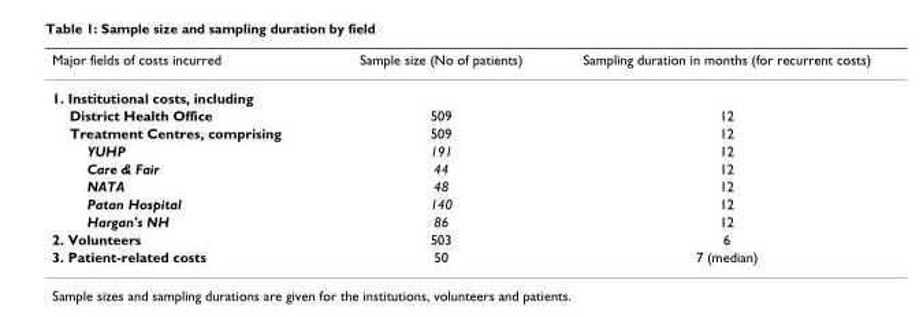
<table><thead><tr><td>Major fields of costs incurred</td><td>Sample size (No of patients)</td><td>Sampling duration in months (for recurrent costs)</td></tr></thead><tbody><tr><td colspan="3">1. Institutional costs, including</td></tr><tr><td>District Health Office</td><td>509</td><td>12</td></tr><tr><td>Treatment Centres, comprising</td><td>509</td><td>12</td></tr><tr><td>YUHP</td><td>191</td><td>12</td></tr><tr><td>Care &amp; Fair</td><td>44</td><td>12</td></tr><tr><td>NATA</td><td>48</td><td>12</td></tr><tr><td>Patan Hospital</td><td>140</td><td>12</td></tr><tr><td>Hargan&#x27;s NH</td><td>86</td><td>12</td></tr><tr><td>2. Volunteers</td><td>503</td><td>6</td></tr><tr><td>3. Patient-related costs</td><td>50</td><td>7 (median)</td></tr></tbody></table>